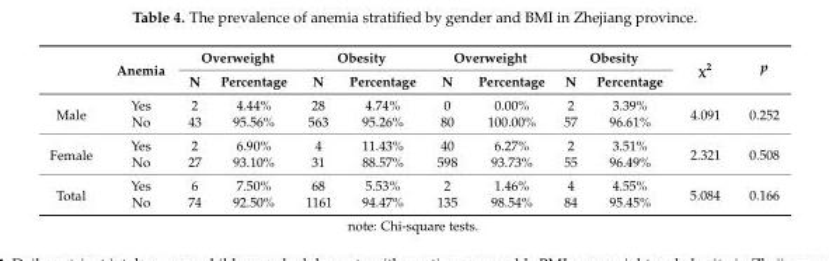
<table><thead><tr><td rowspan="2"></td><td rowspan="2">Anemia</td><td colspan="2">Overweight</td><td colspan="2">Obesity</td><td colspan="2">Overweight</td><td colspan="2">Obesity</td><td rowspan="2">χ<sup>2</sup></td><td rowspan="2">p</td></tr><tr><td>N</td><td>Percentage</td><td>N</td><td>Percentage</td><td>N</td><td>Percentage</td><td>N</td><td>Percentage</td></tr></thead><tbody><tr><td rowspan="2">Male</td><td>Yes</td><td>2</td><td>4.44%</td><td>28</td><td>4.74%</td><td>0</td><td>0.00%</td><td>2</td><td>3.39%</td><td rowspan="2">4.091</td><td rowspan="2">0.252</td></tr><tr><td>No</td><td>43</td><td>95.56%</td><td>563</td><td>95.26%</td><td>80</td><td>100.00%</td><td>57</td><td>96.61%</td></tr><tr><td rowspan="2">Female</td><td>Yes</td><td>2</td><td>6.90%</td><td>4</td><td>11.43%</td><td>40</td><td>6.27%</td><td>2</td><td>3.51%</td><td rowspan="2">2.321</td><td rowspan="2">0.508</td></tr><tr><td>No</td><td>27</td><td>93.10%</td><td>31</td><td>88.57%</td><td>598</td><td>93.73%</td><td>55</td><td>96.49%</td></tr><tr><td rowspan="2">Total</td><td>Yes</td><td>6</td><td>7.50%</td><td>68</td><td>5.53%</td><td>2</td><td>1.46%</td><td>4</td><td>4.55%</td><td rowspan="2">5.084</td><td rowspan="2">0.166</td></tr><tr><td>No</td><td>74</td><td>92.50%</td><td>1161</td><td>94.47%</td><td>135</td><td>98.54%</td><td>84</td><td>95.45%</td></tr></tbody></table>